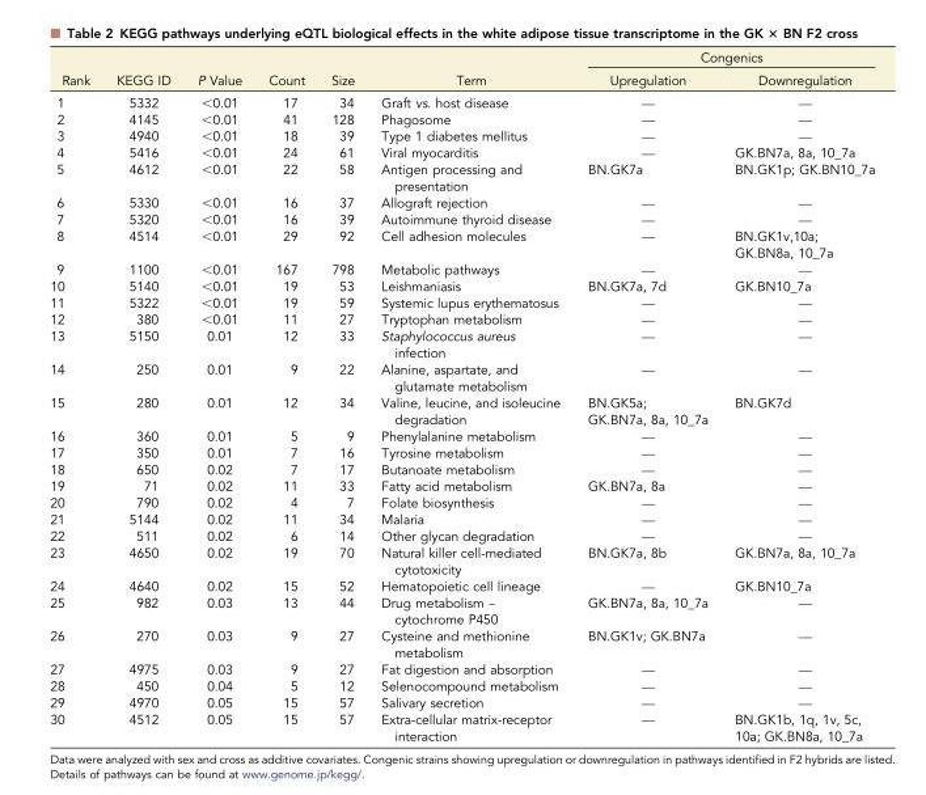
<table><thead><tr><td rowspan="2">Rank</td><td rowspan="2">KEGG ID</td><td rowspan="2">P Value</td><td rowspan="2">Count</td><td rowspan="2">Size</td><td rowspan="2">Term</td><td colspan="2">Congenics</td></tr><tr><td>Upregulation</td><td>Downregulation</td></tr></thead><tbody><tr><td>1</td><td>5332</td><td>&lt;0.01</td><td>17</td><td>34</td><td>Graft vs. host disease</td><td>—</td><td>—</td></tr><tr><td>2</td><td>4145</td><td>&lt;0.01</td><td>41</td><td>128</td><td>Phagosome</td><td>—</td><td>—</td></tr><tr><td>3</td><td>4940</td><td>&lt;0.01</td><td>18</td><td>39</td><td>Type 1 diabetes mellitus</td><td>—</td><td>—</td></tr><tr><td>4</td><td>5416</td><td>&lt;0.01</td><td>24</td><td>61</td><td>Viral myocarditis</td><td>—</td><td>GK.BN7a, 8a, 10_7a</td></tr><tr><td>5</td><td>4612</td><td>&lt;0.01</td><td>22</td><td>58</td><td>Antigen processing and presentation</td><td>BN.GK7a</td><td>BN.GK1p; GK.BN10_7a</td></tr><tr><td>6</td><td>5330</td><td>&lt;0.01</td><td>16</td><td>37</td><td>Allograft rejection</td><td>—</td><td>—</td></tr><tr><td>7</td><td>5320</td><td>&lt;0.01</td><td>16</td><td>39</td><td>Autoimmune thyroid disease</td><td>—</td><td>—</td></tr><tr><td>8</td><td>4514</td><td>&lt;0.01</td><td>29</td><td>92</td><td>Cell adhesion molecules</td><td>—</td><td>BN.GK1v,10a; GK.BN8a, 10_7a</td></tr><tr><td>9</td><td>1100</td><td>&lt;0.01</td><td>167</td><td>798</td><td>Metabolic pathways</td><td>—</td><td>—</td></tr><tr><td>10</td><td>5140</td><td>&lt;0.01</td><td>19</td><td>53</td><td>Leishmaniasis</td><td>BN.GK7a, 7d</td><td>GK.BN10_7a</td></tr><tr><td>11</td><td>5322</td><td>&lt;0.01</td><td>19</td><td>59</td><td>Systemic lupus erythematosus</td><td>—</td><td>—</td></tr><tr><td>12</td><td>380</td><td>&lt;0.01</td><td>11</td><td>27</td><td>Tryptophan metabolism</td><td>—</td><td>—</td></tr><tr><td>13</td><td>5150</td><td>0.01</td><td>12</td><td>33</td><td>Staphylococcus aureus infection</td><td>—</td><td>—</td></tr><tr><td>14</td><td>250</td><td>0.01</td><td>9</td><td>22</td><td>Alanine, aspartate, and glutamate metabolism</td><td>—</td><td>—</td></tr><tr><td>15</td><td>280</td><td>0.01</td><td>12</td><td>34</td><td>Valine, leucine, and isoleucine degradation</td><td>BN.GK5a; GK.BN7a, 8a, 10_7a</td><td>BN.GK7d</td></tr><tr><td>16</td><td>360</td><td>0.01</td><td>5</td><td>9</td><td>Phenylalanine metabolism</td><td>—</td><td>—</td></tr><tr><td>17</td><td>350</td><td>0.01</td><td>7</td><td>16</td><td>Tyrosine metabolism</td><td>—</td><td>—</td></tr><tr><td>18</td><td>650</td><td>0.02</td><td>7</td><td>17</td><td>Butanoate metabolism</td><td>—</td><td>—</td></tr><tr><td>19</td><td>71</td><td>0.02</td><td>11</td><td>33</td><td>Fatty acid metabolism</td><td>GK.BN7a, 8a</td><td>—</td></tr><tr><td>20</td><td>790</td><td>0.02</td><td>4</td><td>7</td><td>Folate biosynthesis</td><td>—</td><td>—</td></tr><tr><td>21</td><td>5144</td><td>0.02</td><td>11</td><td>34</td><td>Malaria</td><td>—</td><td>—</td></tr><tr><td>22</td><td>511</td><td>0.02</td><td>6</td><td>14</td><td>Other glycan degradation</td><td>—</td><td>—</td></tr><tr><td>23</td><td>4650</td><td>0.02</td><td>19</td><td>70</td><td>Natural killer cell-mediated cytotoxicity</td><td>BN.GK7a, 8b</td><td>GK.BN7a, 8a, 10_7a</td></tr><tr><td>24</td><td>4640</td><td>0.02</td><td>15</td><td>52</td><td>Hematopoietic cell lineage</td><td>—</td><td>GK.BN10_7a</td></tr><tr><td>25</td><td>982</td><td>0.03</td><td>13</td><td>44</td><td>Drug metabolism – cytochrome P450</td><td>GK.BN7a, 8a, 10_7a</td><td>—</td></tr><tr><td>26</td><td>270</td><td>0.03</td><td>9</td><td>27</td><td>Cysteine and methionine metabolism</td><td>BN.GK1v; GK.BN7a</td><td>—</td></tr><tr><td>27</td><td>4975</td><td>0.03</td><td>9</td><td>27</td><td>Fat digestion and absorption</td><td>—</td><td>—</td></tr><tr><td>28</td><td>450</td><td>0.04</td><td>5</td><td>12</td><td>Selenocompound metabolism</td><td>—</td><td>—</td></tr><tr><td>29</td><td>4970</td><td>0.05</td><td>15</td><td>57</td><td>Salivary secretion</td><td>—</td><td>—</td></tr><tr><td>30</td><td>4512</td><td>0.05</td><td>15</td><td>57</td><td>Extra-cellular matrix-receptor interaction</td><td>—</td><td>BN.GK1b, 1q, 1v, 5c, 10a; GK.BN8a, 10_7a</td></tr></tbody></table>